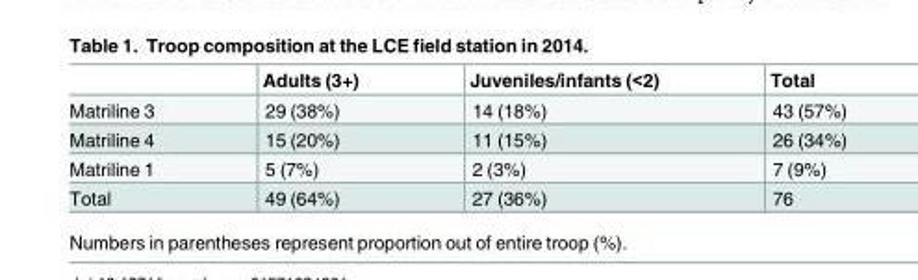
<table><thead><tr><td></td><td>Adults (3+)</td><td>Juveniles/infants (&lt;2)</td><td>Total</td></tr></thead><tbody><tr><td>Matriline 3</td><td>29 (38%)</td><td>14 (18%)</td><td>43 (57%)</td></tr><tr><td>Matriline 4</td><td>15 (20%)</td><td>11 (15%)</td><td>26 (34%)</td></tr><tr><td>Matriline 1</td><td>5 (7%)</td><td>2 (3%)</td><td>7 (9%)</td></tr><tr><td>Total</td><td>49 (64%)</td><td>27 (36%)</td><td>76</td></tr></tbody></table>